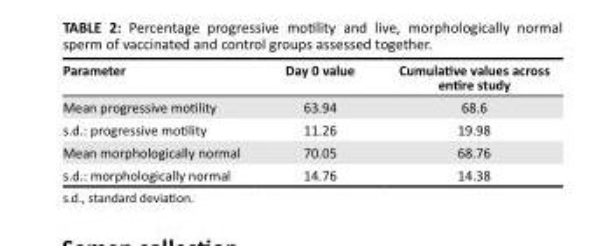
<table><thead><tr><td>Parameter</td><td>Day 0 value</td><td>Cumulative values across entire study</td></tr></thead><tbody><tr><td>Mean progressive motility</td><td>63.94</td><td>68.6</td></tr><tr><td>s.d.: progressive motility</td><td>11.26</td><td>19.98</td></tr><tr><td>Mean morphologically normal</td><td>70.05</td><td>68.76</td></tr><tr><td>s.d.: morphologically normal</td><td>14.76</td><td>14.38</td></tr></tbody></table>